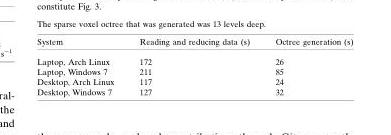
<table><thead><tr><td>System</td><td>Reading and reducing data (s)</td><td>Octree generation (s)</td></tr></thead><tbody><tr><td>Laptop, Arch Linux</td><td>172</td><td>26</td></tr><tr><td>Laptop, Windows 7</td><td>211</td><td>85</td></tr><tr><td>Desktop, Arch Linux</td><td>117</td><td>24</td></tr><tr><td>Desktop, Windows 7</td><td>127</td><td>32</td></tr></tbody></table>